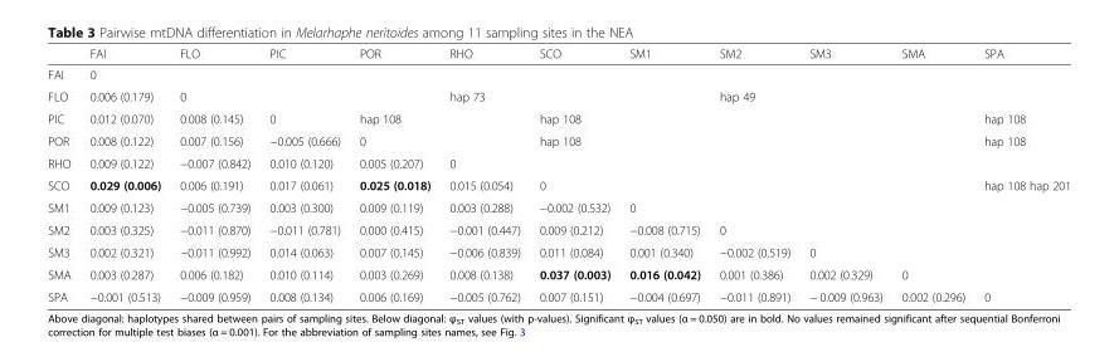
<table><thead><tr><td></td><td>FAI</td><td>FLO</td><td>PIC</td><td>POR</td><td>RHO</td><td>SCO</td><td>SM1</td><td>SM2</td><td>SM3</td><td>SMA</td><td>SPA</td></tr></thead><tbody><tr><td>FAI</td><td>0</td><td></td><td></td><td></td><td></td><td></td><td></td><td></td><td></td><td></td><td></td></tr><tr><td>FLO</td><td>0.006 (0.179)</td><td>0</td><td></td><td></td><td>hap 73</td><td></td><td></td><td>hap 49</td><td></td><td></td><td></td></tr><tr><td>PIC</td><td>0.012 (0.070)</td><td>0.008 (0.145)</td><td>0</td><td>hap 108</td><td></td><td>hap 108</td><td></td><td></td><td></td><td></td><td>hap 108</td></tr><tr><td>POR</td><td>0.008 (0.122)</td><td>0.007 (0.156)</td><td>−0.005 (0.666)</td><td>0</td><td></td><td>hap 108</td><td></td><td></td><td></td><td></td><td>hap 108</td></tr><tr><td>RHO</td><td>0.009 (0.122)</td><td>−0.007 (0.842)</td><td>0.010 (0.120)</td><td>0.005 (0.207)</td><td>0</td><td></td><td></td><td></td><td></td><td></td><td></td></tr><tr><td>SCO</td><td>0.029 (0.006)</td><td>0.006 (0.191)</td><td>0.017 (0.061)</td><td>0.025 (0.018)</td><td>0.015 (0.054)</td><td>0</td><td></td><td></td><td></td><td></td><td>hap 108 hap 201</td></tr><tr><td>SM1</td><td>0.009 (0.123)</td><td>−0.005 (0.739)</td><td>0.003 (0.300)</td><td>0.009 (0.119)</td><td>0.003 (0.288)</td><td>−0.002 (0.532)</td><td>0</td><td></td><td></td><td></td><td></td></tr><tr><td>SM2</td><td>0.003 (0.325)</td><td>−0.011 (0.870)</td><td>−0.011 (0.781)</td><td>0.000 (0.415)</td><td>−0.001 (0.447)</td><td>0.009 (0.212)</td><td>−0.008 (0.715)</td><td>0</td><td></td><td></td><td></td></tr><tr><td>SM3</td><td>0.002 (0.321)</td><td>−0.011 (0.992)</td><td>0.014 (0.063)</td><td>0.007 (0.145)</td><td>−0.006 (0.839)</td><td>0.011 (0.084)</td><td>0.001 (0.340)</td><td>−0.002 (0.519)</td><td>0</td><td></td><td></td></tr><tr><td>SMA</td><td>0.003 (0.287)</td><td>0.006 (0.182)</td><td>0.010 (0.114)</td><td>0.003 (0.269)</td><td>0.008 (0.138)</td><td>0.037 (0.003)</td><td>0.016 (0.042)</td><td>0.001 (0.386)</td><td>0.002 (0.329)</td><td>0</td><td></td></tr><tr><td>SPA</td><td>−0.001 (0.513)</td><td>−0.009 (0.959)</td><td>0.008 (0.134)</td><td>0.006 (0.169)</td><td>−0.005 (0.762)</td><td>0.007 (0.151)</td><td>−0.004 (0.697)</td><td>−0.011 (0.891)</td><td>− 0.009 (0.963)</td><td>0.002 (0.296)</td><td>0</td></tr></tbody></table>